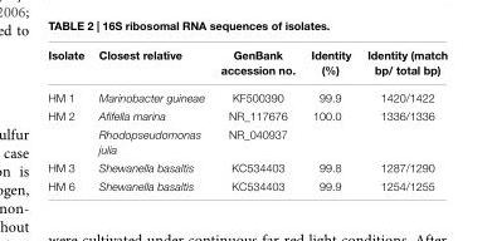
<table><thead><tr><td>Isolate</td><td>Closest relative</td><td>GenBank accession no.</td><td>Identity (%)</td><td>Identity (match bp/ total bp)</td></tr></thead><tbody><tr><td>HM 1</td><td>Marinobacter guineae</td><td>KF500390</td><td>99.9</td><td>1420/1422</td></tr><tr><td rowspan="2">HM 2</td><td>Afifella marina</td><td>NR_117676</td><td>100.0</td><td>1336/1336</td></tr><tr><td>Rhodopseudomonas julia</td><td>NR_040937</td><td></td><td></td></tr><tr><td>HM 3</td><td>Shewanella basaltis</td><td>KC534403</td><td>99.8</td><td>1287/1290</td></tr><tr><td>HM 6</td><td>Shewanella basaltis</td><td>KC534403</td><td>99.9</td><td>1254/1255</td></tr></tbody></table>